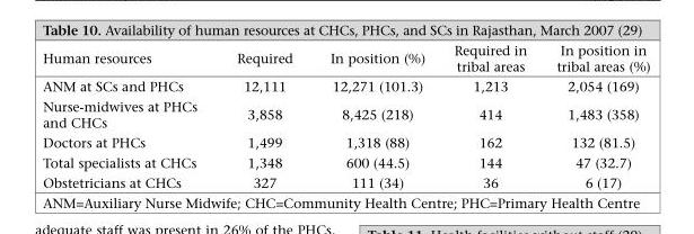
<table><thead><tr><td>Human resources</td><td>Required</td><td>In position (%)</td><td>Required in tribal areas</td><td>In position in tribal areas (%)</td></tr></thead><tbody><tr><td>ANM at SCs and PHCs</td><td>12,111</td><td>12,271 (101.3)</td><td>1,213</td><td>2,054 (169)</td></tr><tr><td>Nurse-midwives at PHCs and CHCs</td><td>3,858</td><td>8,425 (218)</td><td>414</td><td>1,483 (358)</td></tr><tr><td>Doctors at PHCs</td><td>1,499</td><td>1,318 (88)</td><td>162</td><td>132 (81.5)</td></tr><tr><td>Total specialists at CHCs</td><td>1,348</td><td>600 (44.5)</td><td>144</td><td>47 (32.7)</td></tr><tr><td>Obstetricians at CHCs</td><td>327</td><td>111 (34)</td><td>36</td><td>6 (17)</td></tr></tbody></table>